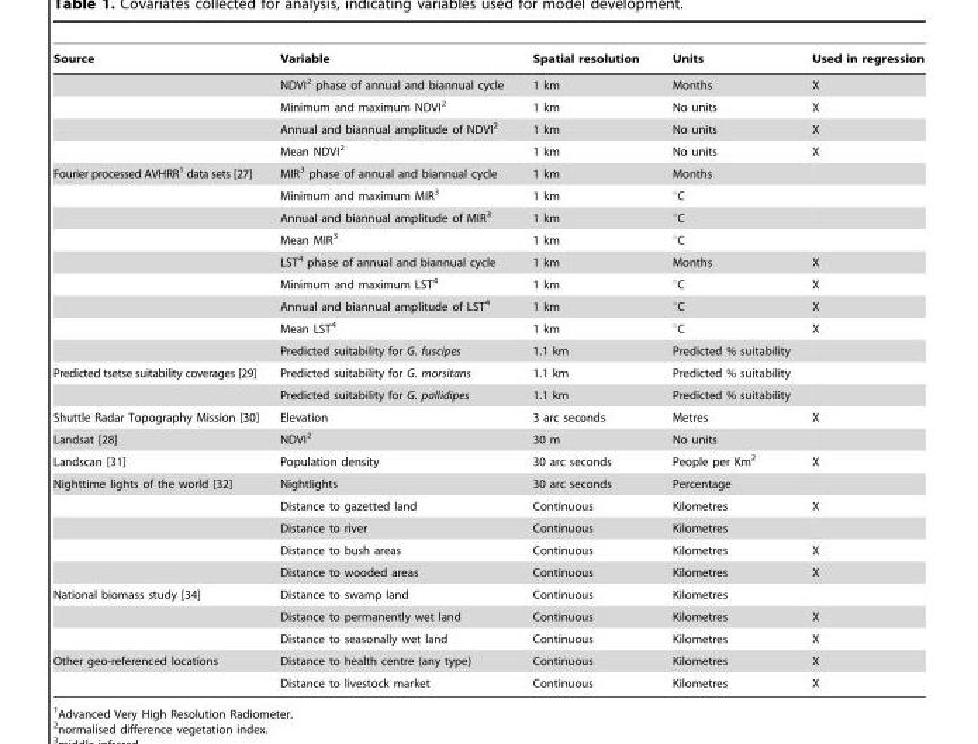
<table><thead><tr><td>Source</td><td>Variable</td><td>Spatial resolution</td><td>Units</td><td>Used in regression</td></tr></thead><tbody><tr><td></td><td>NDVI<sup>2</sup> phase of annual and biannual cycle</td><td>1 km</td><td>Months</td><td>X</td></tr><tr><td></td><td>Minimum and maximum NDVI<sup>2</sup></td><td>1 km</td><td>No units</td><td>X</td></tr><tr><td></td><td>Annual and biannual amplitude of NDVI<sup>2</sup></td><td>1 km</td><td>No units</td><td>X</td></tr><tr><td></td><td>Mean NDVI<sup>2</sup></td><td>1 km</td><td>No units</td><td>X</td></tr><tr><td rowspan="9">Fourier processed AVHRR<sup>1</sup> data sets [27]</td><td>MIR<sup>3</sup> phase of annual and biannual cycle</td><td>1 km</td><td>Months</td><td></td></tr><tr><td>Minimum and maximum MIR<sup>3</sup></td><td>1 km</td><td>°C</td><td></td></tr><tr><td>Annual and biannual amplitude of MIR<sup>3</sup></td><td>1 km</td><td>°C</td><td></td></tr><tr><td>Mean MIR<sup>3</sup></td><td>1 km</td><td>°C</td><td></td></tr><tr><td>LST<sup>4</sup> phase of annual and biannual cycle</td><td>1 km</td><td>Months</td><td>X</td></tr><tr><td>Minimum and maximum LST<sup>4</sup></td><td>1 km</td><td>°C</td><td>X</td></tr><tr><td>Annual and biannual amplitude of LST<sup>4</sup></td><td>1 km</td><td>°C</td><td>X</td></tr><tr><td>Mean LST<sup>4</sup></td><td>1 km</td><td>°C</td><td>X</td></tr><tr><td>Predicted suitability for G. fuscipes</td><td>1.1 km</td><td>Predicted % suitability</td><td></td></tr><tr><td rowspan="2">Predicted tsetse suitability coverages [29]</td><td>Predicted suitability for G. morsitans</td><td>1.1 km</td><td>Predicted % suitability</td><td></td></tr><tr><td>Predicted suitability for G. pallidipes</td><td>1.1 km</td><td>Predicted % suitability</td><td></td></tr><tr><td>Shuttle Radar Topography Mission [30]</td><td>Elevation</td><td>3 arc seconds</td><td>Metres</td><td>X</td></tr><tr><td>Landsat [28]</td><td>NDVI<sup>2</sup></td><td>30 m</td><td>No units</td><td></td></tr><tr><td>Landscan [31]</td><td>Population density</td><td>30 arc seconds</td><td>People per Km<sup>2</sup></td><td>X</td></tr><tr><td rowspan="5">Nighttime lights of the world [32]</td><td>Nightlights</td><td>30 arc seconds</td><td>Percentage</td><td></td></tr><tr><td>Distance to gazetted land</td><td>Continuous</td><td>Kilometres</td><td>X</td></tr><tr><td>Distance to river</td><td>Continuous</td><td>Kilometres</td><td></td></tr><tr><td>Distance to bush areas</td><td>Continuous</td><td>Kilometres</td><td>X</td></tr><tr><td>Distance to wooded areas</td><td>Continuous</td><td>Kilometres</td><td>X</td></tr><tr><td rowspan="3">National biomass study [34]</td><td>Distance to swamp land</td><td>Continuous</td><td>Kilometres</td><td></td></tr><tr><td>Distance to permanently wet land</td><td>Continuous</td><td>Kilometres</td><td>X</td></tr><tr><td>Distance to seasonally wet land</td><td>Continuous</td><td>Kilometres</td><td>X</td></tr><tr><td rowspan="2">Other geo-referenced locations</td><td>Distance to health centre (any type)</td><td>Continuous</td><td>Kilometres</td><td>X</td></tr><tr><td>Distance to livestock market</td><td>Continuous</td><td>Kilometres</td><td>X</td></tr></tbody></table>